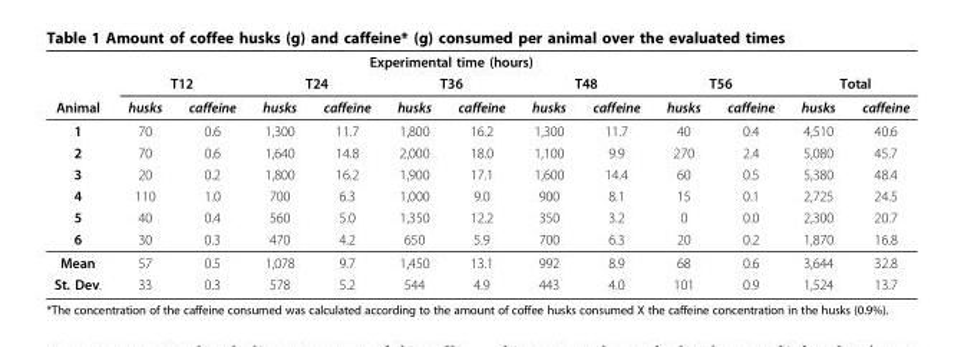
<table><thead><tr><td rowspan="3">Animal</td><td colspan="10">Experimental time (hours)</td><td></td><td></td></tr><tr><td colspan="2">T12</td><td colspan="2">T24</td><td colspan="2">T36</td><td colspan="2">T48</td><td colspan="2">T56</td><td colspan="2">Total</td></tr><tr><td>husks</td><td>caffeine</td><td>husks</td><td>caffeine</td><td>husks</td><td>caffeine</td><td>husks</td><td>caffeine</td><td>husks</td><td>caffeine</td><td>husks</td><td>caffeine</td></tr></thead><tbody><tr><td>1</td><td>70</td><td>0.6</td><td>1,300</td><td>11.7</td><td>1,800</td><td>16.2</td><td>1,300</td><td>11.7</td><td>40</td><td>0.4</td><td>4,510</td><td>40.6</td></tr><tr><td>2</td><td>70</td><td>0.6</td><td>1,640</td><td>14.8</td><td>2,000</td><td>18.0</td><td>1,100</td><td>9.9</td><td>270</td><td>2.4</td><td>5,080</td><td>45.7</td></tr><tr><td>3</td><td>20</td><td>0.2</td><td>1,800</td><td>16.2</td><td>1,900</td><td>17.1</td><td>1,600</td><td>14.4</td><td>60</td><td>0.5</td><td>5,380</td><td>48.4</td></tr><tr><td>4</td><td>110</td><td>1.0</td><td>700</td><td>6.3</td><td>1,000</td><td>9.0</td><td>900</td><td>8.1</td><td>15</td><td>0.1</td><td>2,725</td><td>24.5</td></tr><tr><td>5</td><td>40</td><td>0.4</td><td>560</td><td>5.0</td><td>1,350</td><td>12.2</td><td>350</td><td>3.2</td><td>0</td><td>0.0</td><td>2,300</td><td>20.7</td></tr><tr><td>6</td><td>30</td><td>0.3</td><td>470</td><td>4.2</td><td>650</td><td>5.9</td><td>700</td><td>6.3</td><td>20</td><td>0.2</td><td>1,870</td><td>16.8</td></tr><tr><td>Mean</td><td>57</td><td>0.5</td><td>1,078</td><td>9.7</td><td>1,450</td><td>13.1</td><td>992</td><td>8.9</td><td>68</td><td>0.6</td><td>3,644</td><td>32.8</td></tr><tr><td>St. Dev.</td><td>33</td><td>0.3</td><td>578</td><td>5.2</td><td>544</td><td>4.9</td><td>443</td><td>4.0</td><td>101</td><td>0.9</td><td>1,524</td><td>13.7</td></tr></tbody></table>